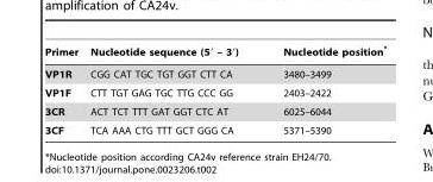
<table><thead><tr><td>Primer</td><td>Nucleotide sequence (5′ – 3′)</td><td>Nucleotide position*</td></tr></thead><tbody><tr><td>VP1R</td><td>CGG CAT TGC TGT GGT CTT CA</td><td>3480–3499</td></tr><tr><td>VP1F</td><td>CTT TGT GAG TGC TTG CCC GG</td><td>2403–2422</td></tr><tr><td>3CR</td><td>ACT TCT TTT GAT GGT CTC AT</td><td>6025–6044</td></tr><tr><td>3CF</td><td>TCA AAA CTG TTT GCT GGG CA</td><td>5371–5390</td></tr></tbody></table>